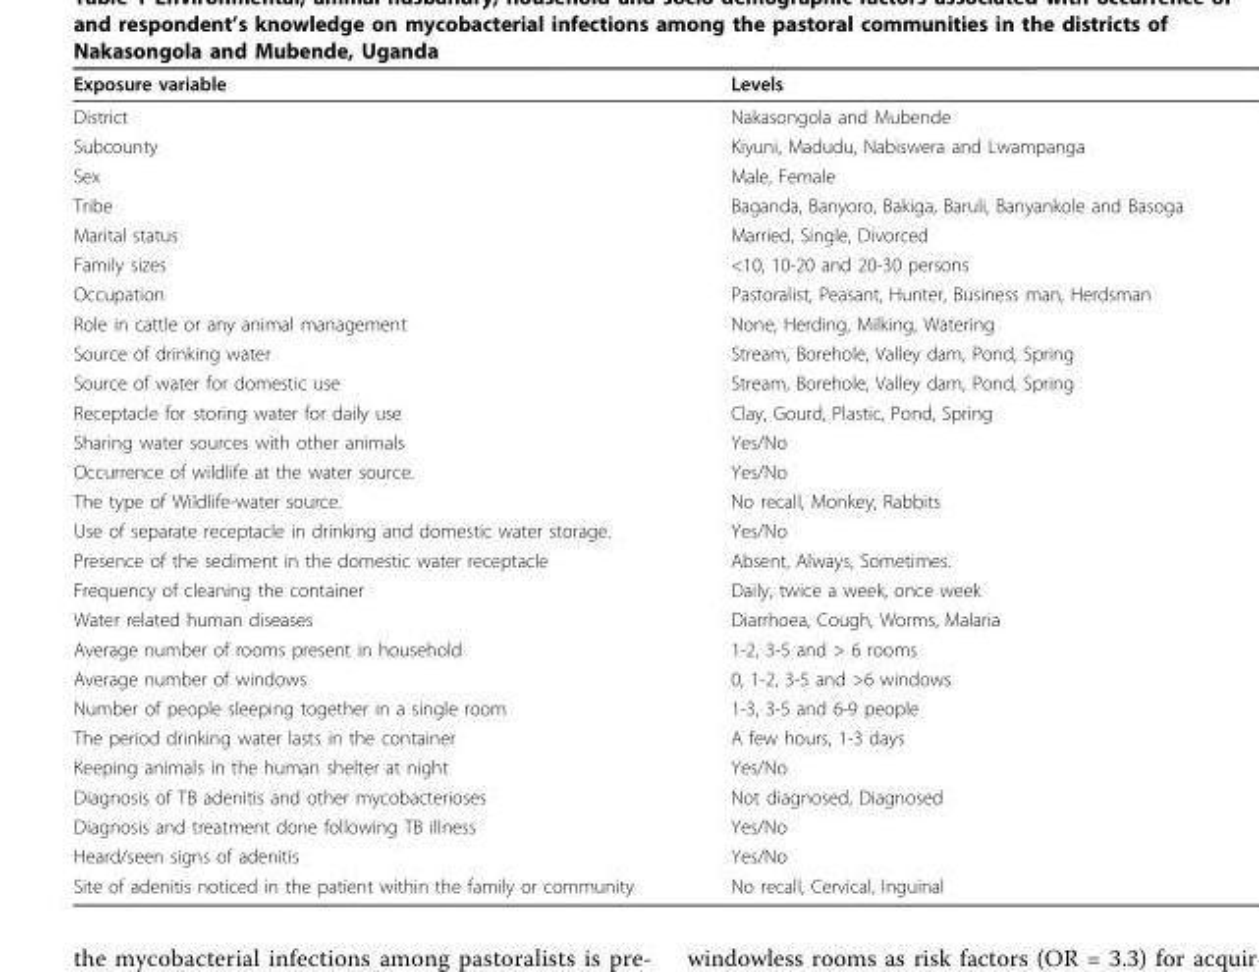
<table><thead><tr><td>Exposure variable</td><td>Levels</td></tr></thead><tbody><tr><td>District</td><td>Nakasongola and Mubende</td></tr><tr><td>Subcounty</td><td>Kiyuni, Madudu, Nabiswera and Lwampanga</td></tr><tr><td>Sex</td><td>Male, Female</td></tr><tr><td>Tribe</td><td>Baganda, Banyoro, Bakiga, Baruli, Banyankole and Basoga</td></tr><tr><td>Marital status</td><td>Married, Single, Divorced</td></tr><tr><td>Family sizes</td><td>&lt;10, 10-20 and 20-30 persons</td></tr><tr><td>Occupation</td><td>Pastoralist, Peasant, Hunter, Business man, Herdsman</td></tr><tr><td>Role in cattle or any animal management</td><td>None, Herding, Milking, Watering</td></tr><tr><td>Source of drinking water</td><td>Stream, Borehole, Valley dam, Pond, Spring</td></tr><tr><td>Source of water for domestic use</td><td>Stream, Borehole, Valley dam, Pond, Spring</td></tr><tr><td>Receptacle for storing water for daily use</td><td>Clay, Gourd, Plastic, Pond, Spring</td></tr><tr><td>Sharing water sources with other animals</td><td>Yes/No</td></tr><tr><td>Occurrence of wildlife at the water source.</td><td>Yes/No</td></tr><tr><td>The type of Wildlife-water source.</td><td>No recall, Monkey, Rabbits</td></tr><tr><td>Use of separate receptacle in drinking and domestic water storage.</td><td>Yes/No</td></tr><tr><td>Presence of the sediment in the domestic water receptacle</td><td>Absent, Always, Sometimes.</td></tr><tr><td>Frequency of cleaning the container</td><td>Daily, twice a week, once week</td></tr><tr><td>Water related human diseases</td><td>Diarrhoea, Cough, Worms, Malaria</td></tr><tr><td>Average number of rooms present in household</td><td>1-2, 3-5 and &gt; 6 rooms</td></tr><tr><td>Average number of windows</td><td>0, 1-2, 3-5 and &gt;6 windows</td></tr><tr><td>Number of people sleeping together in a single room</td><td>1-3, 3-5 and 6-9 people</td></tr><tr><td>The period drinking water lasts in the container</td><td>A few hours, 1-3 days</td></tr><tr><td>Keeping animals in the human shelter at night</td><td>Yes/No</td></tr><tr><td>Diagnosis of TB adenitis and other mycobacterioses</td><td>Not diagnosed, Diagnosed</td></tr><tr><td>Diagnosis and treatment done following TB illness</td><td>Yes/No</td></tr><tr><td>Heard/seen signs of adenitis</td><td>Yes/No</td></tr><tr><td>Site of adenitis noticed in the patient within the family or community</td><td>No recall, Cervical, Inguinal</td></tr></tbody></table>